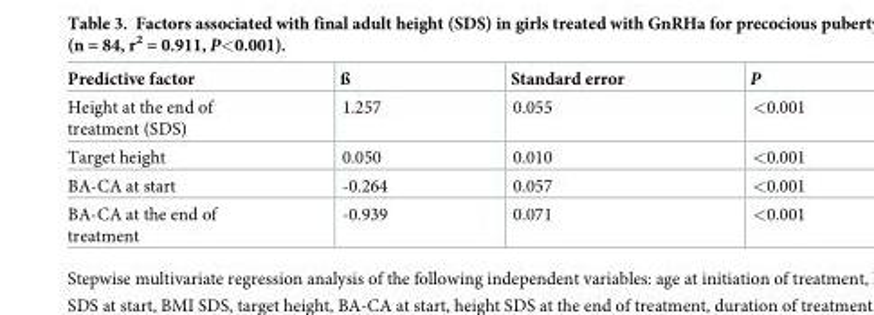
<table><thead><tr><td>Predictive factor</td><td>ß</td><td>Standard error</td><td>P</td></tr></thead><tbody><tr><td>Height at the end of treatment (SDS)</td><td>1.257</td><td>0.055</td><td>&lt;0.001</td></tr><tr><td>Target height</td><td>0.050</td><td>0.010</td><td>&lt;0.001</td></tr><tr><td>BA-CA at start</td><td>-0.264</td><td>0.057</td><td>&lt;0.001</td></tr><tr><td>BA-CA at the end of treatment</td><td>-0.939</td><td>0.071</td><td>&lt;0.001</td></tr></tbody></table>